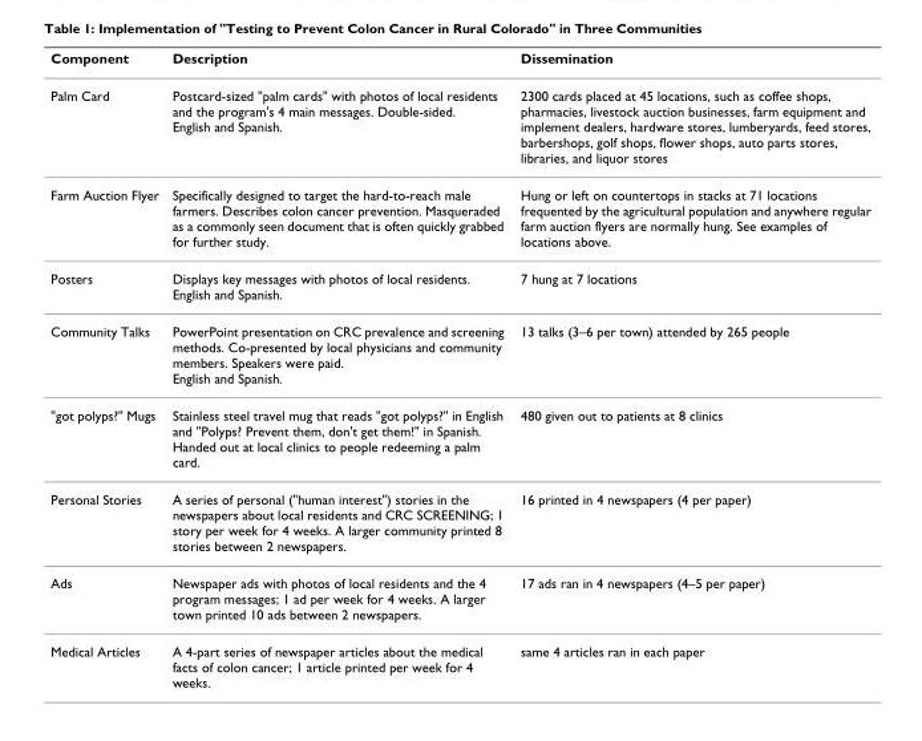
<table><thead><tr><td>Component</td><td>Description</td><td>Dissemination</td></tr></thead><tbody><tr><td>Palm Card</td><td>Postcard-sized &quot;palm cards&quot; with photos of local residents and the program&#x27;s 4 main messages. Double-sided. English and Spanish.</td><td>2300 cards placed at 45 locations, such as coffee shops, pharmacies, livestock auction businesses, farm equipment and implement dealers, hardware stores, lumberyards, feed stores, barbershops, golf shops, flower shops, auto parts stores, libraries, and liquor stores</td></tr><tr><td>Farm Auction Flyer</td><td>Specifically designed to target the hard-to-reach male farmers. Describes colon cancer prevention. Masqueraded as a commonly seen document that is often quickly grabbed for further study.</td><td>Hung or left on countertops in stacks at 71 locations frequented by the agricultural population and anywhere regular farm auction flyers are normally hung. See examples of locations above.</td></tr><tr><td>Posters</td><td>Displays key messages with photos of local residents. English and Spanish.</td><td>7 hung at 7 locations</td></tr><tr><td>Community Talks</td><td>PowerPoint presentation on CRC prevalence and screening methods. Co-presented by local physicians and community members. Speakers were paid. English and Spanish.</td><td>13 talks (3–6 per town) attended by 265 people</td></tr><tr><td>&quot;got polyps?&quot; Mugs</td><td>Stainless steel travel mug that reads &quot;got polyps?&quot; in English and &quot;Polyps? Prevent them, don&#x27;t get them!&quot; in Spanish. Handed out at local clinics to people redeeming a palm card.</td><td>480 given out to patients at 8 clinics</td></tr><tr><td>Personal Stories</td><td>A series of personal (&quot;human interest&quot;) stories in the newspapers about local residents and CRC SCREENING; 1 story per week for 4 weeks. A larger community printed 8 stories between 2 newspapers.</td><td>16 printed in 4 newspapers (4 per paper)</td></tr><tr><td>Ads</td><td>Newspaper ads with photos of local residents and the 4 program messages; 1 ad per week for 4 weeks. A larger town printed 10 ads between 2 newspapers.</td><td>17 ads ran in 4 newspapers (4–5 per paper)</td></tr><tr><td>Medical Articles</td><td>A 4-part series of newspaper articles about the medical facts of colon cancer; 1 article printed per week for 4 weeks.</td><td>same 4 articles ran in each paper</td></tr></tbody></table>